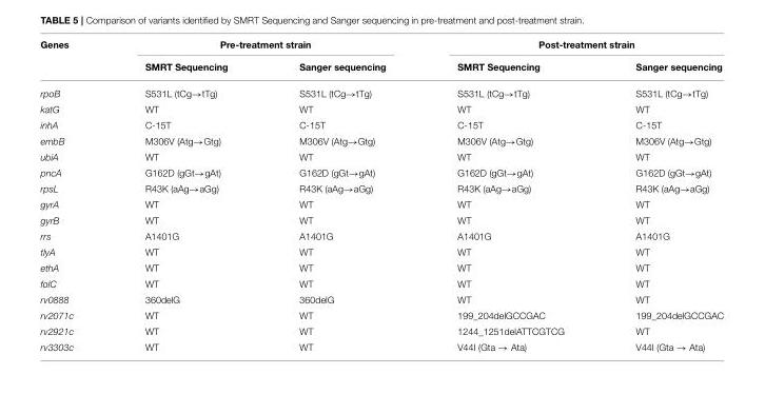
<table><thead><tr><td rowspan="2">Genes</td><td colspan="2">Pre-treatment strain</td><td colspan="2">Post-treatment strain</td></tr><tr><td>SMRT Sequencing</td><td>Sanger sequencing</td><td>SMRT Sequencing</td><td>Sanger sequencing</td></tr></thead><tbody><tr><td>rpoB</td><td>S531L (tCg→tTg)</td><td>S531L (tCg→tTg)</td><td>S531L (tCg→tTg)</td><td>S531L (tCg→tTg)</td></tr><tr><td>katG</td><td>WT</td><td>WT</td><td>WT</td><td>WT</td></tr><tr><td>inhA</td><td>C-15T</td><td>C-15T</td><td>C-15T</td><td>C-15T</td></tr><tr><td>embB</td><td>M306V (Atg→Gtg)</td><td>M306V (Atg→Gtg)</td><td>M306V (Atg→Gtg)</td><td>M306V (Atg→Gtg)</td></tr><tr><td>ubiA</td><td>WT</td><td>WT</td><td>WT</td><td>WT</td></tr><tr><td>pncA</td><td>G162D (gGt→gAt)</td><td>G162D (gGt→gAt)</td><td>G162D (gGt→gAt)</td><td>G162D (gGt→gAt)</td></tr><tr><td>rpsL</td><td>R43K (aAg→aGg)</td><td>R43K (aAg→aGg)</td><td>R43K (aAg→aGg)</td><td>R43K (aAg→aGg)</td></tr><tr><td>gyrA</td><td>WT</td><td>WT</td><td>WT</td><td>WT</td></tr><tr><td>gyrB</td><td>WT</td><td>WT</td><td>WT</td><td>WT</td></tr><tr><td>rrs</td><td>A1401G</td><td>A1401G</td><td>A1401G</td><td>A1401G</td></tr><tr><td>tlyA</td><td>WT</td><td>WT</td><td>WT</td><td>WT</td></tr><tr><td>ethA</td><td>WT</td><td>WT</td><td>WT</td><td>WT</td></tr><tr><td>folC</td><td>WT</td><td>WT</td><td>WT</td><td>WT</td></tr><tr><td>rv0888</td><td>360delG</td><td>360delG</td><td>WT</td><td>WT</td></tr><tr><td>rv2071c</td><td>WT</td><td>WT</td><td>199_204delGCCGAC</td><td>199_204delGCCGAC</td></tr><tr><td>rv2921c</td><td>WT</td><td>WT</td><td>1244_1251delATTCGTCG</td><td>WT</td></tr><tr><td>rv3303c</td><td>WT</td><td>WT</td><td>V44I (Gta → Ata)</td><td>V44I (Gta → Ata)</td></tr></tbody></table>